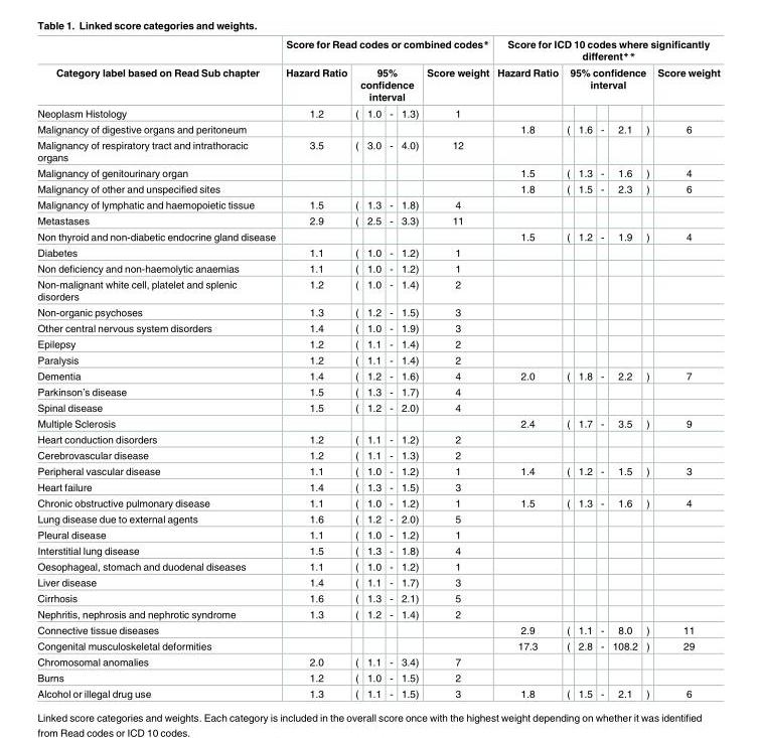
<table><thead><tr><td rowspan="3">Category label based on Read Sub chapter Neoplasm Histology</td><td colspan="6">Score for Read codes or combined codes*</td><td colspan="7">Score for ICD 10 codes where significantly different**</td></tr><tr><td rowspan="2">Hazard Ratio 1.2</td><td colspan="4">95% confidence interval</td><td rowspan="2">Score weight 1</td><td rowspan="2">Hazard Ratio</td><td colspan="5">95% confidence interval</td><td rowspan="2">Score weight</td></tr><tr><td>(</td><td>1.0</td><td>-</td><td>1.3)</td><td></td><td></td><td></td><td></td><td></td></tr></thead><tbody><tr><td>Malignancy of digestive organs and peritoneum</td><td></td><td></td><td></td><td></td><td></td><td></td><td>1.8</td><td>(</td><td>1.6</td><td>-</td><td>2.1</td><td>)</td><td>6</td></tr><tr><td>Malignancy of respiratory tract and intrathoracic organs</td><td>3.5</td><td>(</td><td>3.0</td><td>-</td><td>4.0)</td><td>12</td><td></td><td></td><td></td><td></td><td></td><td></td><td></td></tr><tr><td>Malignancy of genitourinary organ</td><td></td><td></td><td></td><td></td><td></td><td></td><td>1.5</td><td>(</td><td>1.3</td><td>-</td><td>1.6</td><td>)</td><td>4</td></tr><tr><td>Malignancy of other and unspecified sites</td><td></td><td></td><td></td><td></td><td></td><td></td><td>1.8</td><td>(</td><td>1.5</td><td>-</td><td>2.3</td><td>)</td><td>6</td></tr><tr><td>Malignancy of lymphatic and haemopoietic tissue</td><td>1.5</td><td>(</td><td>1.3</td><td>-</td><td>1.8)</td><td>4</td><td></td><td></td><td></td><td></td><td></td><td></td><td></td></tr><tr><td>Metastases</td><td>2.9</td><td>(</td><td>2.5</td><td>-</td><td>3.3)</td><td>11</td><td></td><td></td><td></td><td></td><td></td><td></td><td></td></tr><tr><td>Non thyroid and non-diabetic endocrine gland disease</td><td></td><td></td><td></td><td></td><td></td><td></td><td>1.5</td><td>(</td><td>1.2</td><td>-</td><td>1.9</td><td>)</td><td>4</td></tr><tr><td>Diabetes</td><td>1.1</td><td>(</td><td>1.0</td><td>-</td><td>1.2)</td><td>1</td><td></td><td></td><td></td><td></td><td></td><td></td><td></td></tr><tr><td>Non deficiency and non-haemolytic anaemias</td><td>1.1</td><td>(</td><td>1.0</td><td>-</td><td>1.2)</td><td>1</td><td></td><td></td><td></td><td></td><td></td><td></td><td></td></tr><tr><td>Non-malignant white cell, platelet and splenic disorders</td><td>1.2</td><td>(</td><td>1.0</td><td>-</td><td>1.4)</td><td>2</td><td></td><td></td><td></td><td></td><td></td><td></td><td></td></tr><tr><td>Non-organic psychoses</td><td>1.3</td><td>(</td><td>1.2</td><td>-</td><td>1.5)</td><td>3</td><td></td><td></td><td></td><td></td><td></td><td></td><td></td></tr><tr><td>Other central nervous system disorders</td><td>1.4</td><td>(</td><td>1.0</td><td>-</td><td>1.9)</td><td>3</td><td></td><td></td><td></td><td></td><td></td><td></td><td></td></tr><tr><td>Epilepsy</td><td>1.2</td><td>(</td><td>1.1</td><td>-</td><td>1.4)</td><td>2</td><td></td><td></td><td></td><td></td><td></td><td></td><td></td></tr><tr><td>Paralysis</td><td>1.2</td><td>(</td><td>1.1</td><td>-</td><td>1.4)</td><td>2</td><td></td><td></td><td></td><td></td><td></td><td></td><td></td></tr><tr><td>Dementia</td><td>1.4</td><td>(</td><td>1.2</td><td>-</td><td>1.6)</td><td>4</td><td>2.0</td><td>(</td><td>1.8</td><td>-</td><td>2.2</td><td>)</td><td>7</td></tr><tr><td>Parkinson’s disease</td><td>1.5</td><td>(</td><td>1.3</td><td>-</td><td>1.7)</td><td>4</td><td></td><td></td><td></td><td></td><td></td><td></td><td></td></tr><tr><td>Spinal disease</td><td>1.5</td><td>(</td><td>1.2</td><td>-</td><td>2.0)</td><td>4</td><td></td><td></td><td></td><td></td><td></td><td></td><td></td></tr><tr><td>Multiple Sclerosis</td><td></td><td></td><td></td><td></td><td></td><td></td><td>2.4</td><td>(</td><td>1.7</td><td>-</td><td>3.5</td><td>)</td><td>9</td></tr><tr><td>Heart conduction disorders</td><td>1.2</td><td>(</td><td>1.1</td><td>-</td><td>1.2)</td><td>2</td><td></td><td></td><td></td><td></td><td></td><td></td><td></td></tr><tr><td>Cerebrovascular disease</td><td>1.2</td><td>(</td><td>1.1</td><td>-</td><td>1.3)</td><td>2</td><td></td><td></td><td></td><td></td><td></td><td></td><td></td></tr><tr><td>Peripheral vascular disease</td><td>1.1</td><td>(</td><td>1.0</td><td>-</td><td>1.2)</td><td>1</td><td>1.4</td><td>(</td><td>1.2</td><td>-</td><td>1.5</td><td>)</td><td>3</td></tr><tr><td>Heart failure</td><td>1.4</td><td>(</td><td>1.3</td><td>-</td><td>1.5)</td><td>3</td><td></td><td></td><td></td><td></td><td></td><td></td><td></td></tr><tr><td>Chronic obstructive pulmonary disease</td><td>1.1</td><td>(</td><td>1.0</td><td>-</td><td>1.2)</td><td>1</td><td>1.5</td><td>(</td><td>1.3</td><td>-</td><td>1.6</td><td>)</td><td>4</td></tr><tr><td>Lung disease due to external agents</td><td>1.6</td><td>(</td><td>1.2</td><td>-</td><td>2.0)</td><td>5</td><td></td><td></td><td></td><td></td><td></td><td></td><td></td></tr><tr><td>Pleural disease</td><td>1.1</td><td>(</td><td>1.0</td><td>-</td><td>1.2)</td><td>1</td><td></td><td></td><td></td><td></td><td></td><td></td><td></td></tr><tr><td>Interstitial lung disease</td><td>1.5</td><td>(</td><td>1.3</td><td>-</td><td>1.8)</td><td>4</td><td></td><td></td><td></td><td></td><td></td><td></td><td></td></tr><tr><td>Oesophageal, stomach and duodenal diseases</td><td>1.1</td><td>(</td><td>1.0</td><td>-</td><td>1.2)</td><td>1</td><td></td><td></td><td></td><td></td><td></td><td></td><td></td></tr><tr><td>Liver disease</td><td>1.4</td><td>(</td><td>1.1</td><td>-</td><td>1.7)</td><td>3</td><td></td><td></td><td></td><td></td><td></td><td></td><td></td></tr><tr><td>Cirrhosis</td><td>1.6</td><td>(</td><td>1.3</td><td>-</td><td>2.1)</td><td>5</td><td></td><td></td><td></td><td></td><td></td><td></td><td></td></tr><tr><td>Nephritis, nephrosis and nephrotic syndrome</td><td>1.3</td><td>(</td><td>1.2</td><td>-</td><td>1.4)</td><td>2</td><td></td><td></td><td></td><td></td><td></td><td></td><td></td></tr><tr><td>Connective tissue diseases</td><td></td><td></td><td></td><td></td><td></td><td></td><td>2.9</td><td>(</td><td>1.1</td><td>-</td><td>8.0</td><td>)</td><td>11</td></tr><tr><td>Congenital musculoskeletal deformities</td><td></td><td></td><td></td><td></td><td></td><td></td><td>17.3</td><td>(</td><td>2.8</td><td>-</td><td>108.2</td><td>)</td><td>29</td></tr><tr><td>Chromosomal anomalies</td><td>2.0</td><td>(</td><td>1.1</td><td>-</td><td>3.4)</td><td>7</td><td></td><td></td><td></td><td></td><td></td><td></td><td></td></tr><tr><td>Burns</td><td>1.2</td><td>(</td><td>1.0</td><td>-</td><td>1.5)</td><td>2</td><td></td><td></td><td></td><td></td><td></td><td></td><td></td></tr><tr><td>Alcohol or illegal drug use</td><td>1.3</td><td>(</td><td>1.1</td><td>-</td><td>1.5)</td><td>3</td><td>1.8</td><td>(</td><td>1.5</td><td>-</td><td>2.1</td><td>)</td><td>6</td></tr></tbody></table>